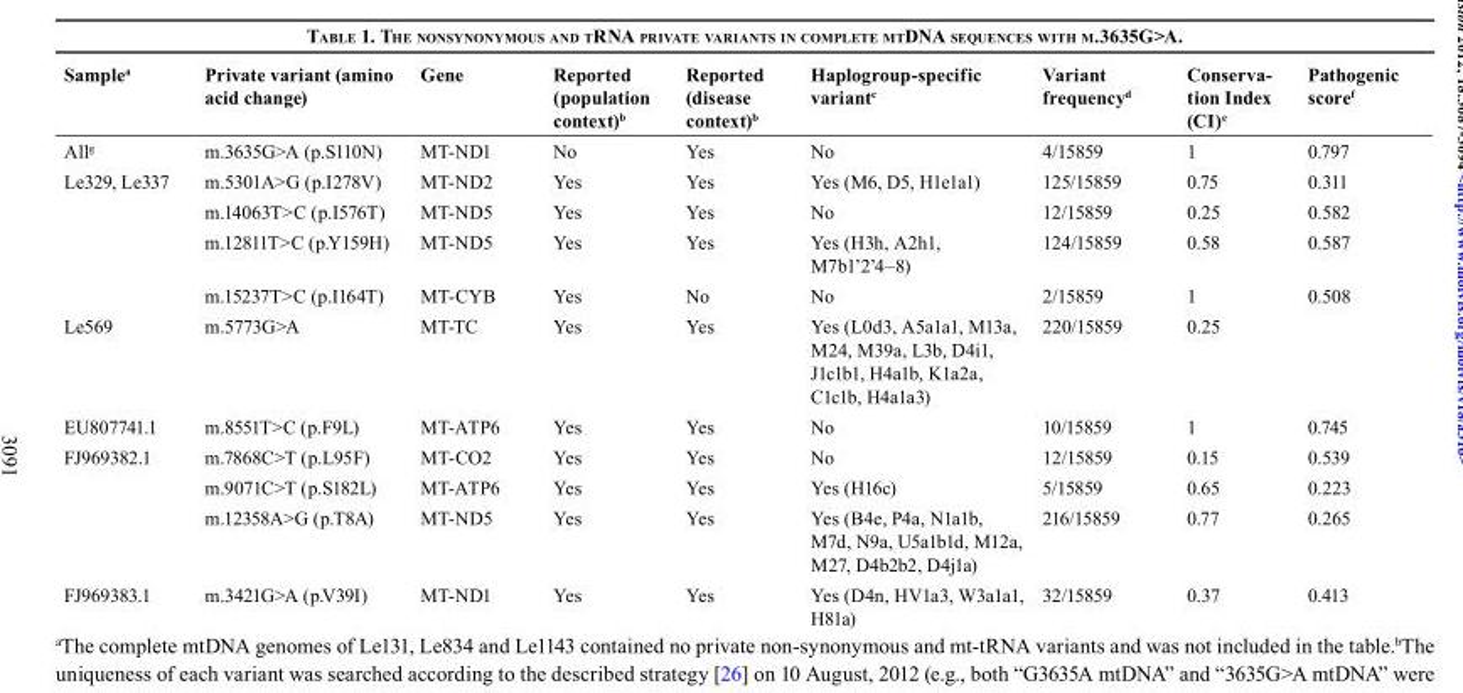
<table><thead><tr><td>Sample<sup>a</sup></td><td>Private variant (amino acid change)</td><td>Gene</td><td>Reported (population context)<sup>b</sup></td><td>Reported (disease context)<sup>b</sup></td><td>Haplogroup-specific variant<sup>c</sup></td><td>Variant frequency<sup>d</sup></td><td>Conserva- tion Index (CI)e</td><td>Pathogenic score<sup>f</sup></td></tr></thead><tbody><tr><td>All<sup>g</sup></td><td>m.3635G&gt;A (p.S110N)</td><td>MT-ND1</td><td>No</td><td>Yes</td><td>No</td><td>4/15859</td><td>1</td><td>0.797</td></tr><tr><td rowspan="4">Le329, Le337</td><td>m.5301A&gt;G (p.I278V)</td><td>MT-ND2</td><td>Yes</td><td>Yes</td><td>Yes (M6, D5, H1e1a1)</td><td>125/15859</td><td>0.75</td><td>0.311</td></tr><tr><td>m.14063T&gt;C (p.I576T)</td><td>MT-ND5</td><td>Yes</td><td>Yes</td><td>No</td><td>12/15859</td><td>0.25</td><td>0.582</td></tr><tr><td>m.12811T&gt;C (p.Y159H)</td><td>MT-ND5</td><td>Yes</td><td>Yes</td><td>Yes (H3h, A2h1, M7b1’2’4–8)</td><td>124/15859</td><td>0.58</td><td>0.587</td></tr><tr><td>m.15237T&gt;C (p.I164T)</td><td>MT-CYB</td><td>Yes</td><td>No</td><td>No</td><td>2/15859</td><td>1</td><td>0.508</td></tr><tr><td>Le569</td><td>m.5773G&gt;A</td><td>MT-TC</td><td>Yes</td><td>Yes</td><td>Yes (L0d3, A5a1a1, M13a, M24, M39a, L3b, D4i1, J1c1b1, H4a1b, K1a2a, C1c1b, H4a1a3)</td><td>220/15859</td><td>0.25</td><td></td></tr><tr><td>EU807741.1</td><td>m.8551T&gt;C (p.F9L)</td><td>MT-ATP6</td><td>Yes</td><td>Yes</td><td>No</td><td>10/15859</td><td>1</td><td>0.745</td></tr><tr><td rowspan="3">FJ969382.1</td><td>m.7868C&gt;T (p.L95F)</td><td>MT-CO2</td><td>Yes</td><td>Yes</td><td>No</td><td>12/15859</td><td>0.15</td><td>0.539</td></tr><tr><td>m.9071C&gt;T (p.S182L)</td><td>MT-ATP6</td><td>Yes</td><td>Yes</td><td>Yes (H16c)</td><td>5/15859</td><td>0.65</td><td>0.223</td></tr><tr><td>m.12358A&gt;G (p.T8A)</td><td>MT-ND5</td><td>Yes</td><td>Yes</td><td>Yes (B4e, P4a, N1a1b, M7d, N9a, U5a1b1d, M12a, M27, D4b2b2, D4j1a)</td><td>216/15859</td><td>0.77</td><td>0.265</td></tr><tr><td>FJ969383.1</td><td>m.3421G&gt;A (p.V39I)</td><td>MT-ND1</td><td>Yes</td><td>Yes</td><td>Yes (D4n, HV1a3, W3a1a1, H81a)</td><td>32/15859</td><td>0.37</td><td>0.413</td></tr></tbody></table>